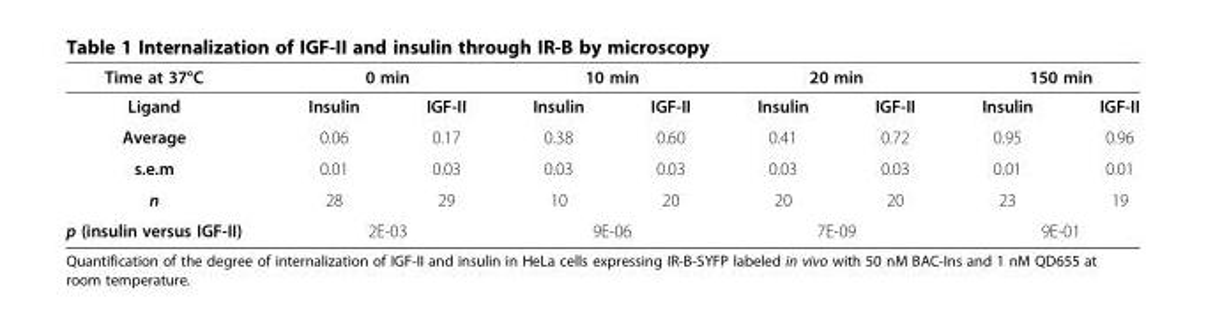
<table><thead><tr><td rowspan="2">Time at 37°C Ligand</td><td colspan="2">0 min</td><td colspan="2">10 min</td><td colspan="2">20 min</td><td colspan="2">150 min</td></tr><tr><td>Insulin</td><td>IGF-II</td><td>Insulin</td><td>IGF-II</td><td>Insulin</td><td>IGF-II</td><td>Insulin</td><td>IGF-II</td></tr></thead><tbody><tr><td>Average</td><td>0.06</td><td>0.17</td><td>0.38</td><td>0.60</td><td>0.41</td><td>0.72</td><td>0.95</td><td>0.96</td></tr><tr><td>s.e.m</td><td>0.01</td><td>0.03</td><td>0.03</td><td>0.03</td><td>0.03</td><td>0.03</td><td>0.01</td><td>0.01</td></tr><tr><td>n</td><td>28</td><td>29</td><td>10</td><td>20</td><td>20</td><td>20</td><td>23</td><td>19</td></tr><tr><td>p (insulin versus IGF-II)</td><td colspan="2">2E-03</td><td colspan="2">9E-06</td><td colspan="2">7E-09</td><td colspan="2">9E-01</td></tr></tbody></table>